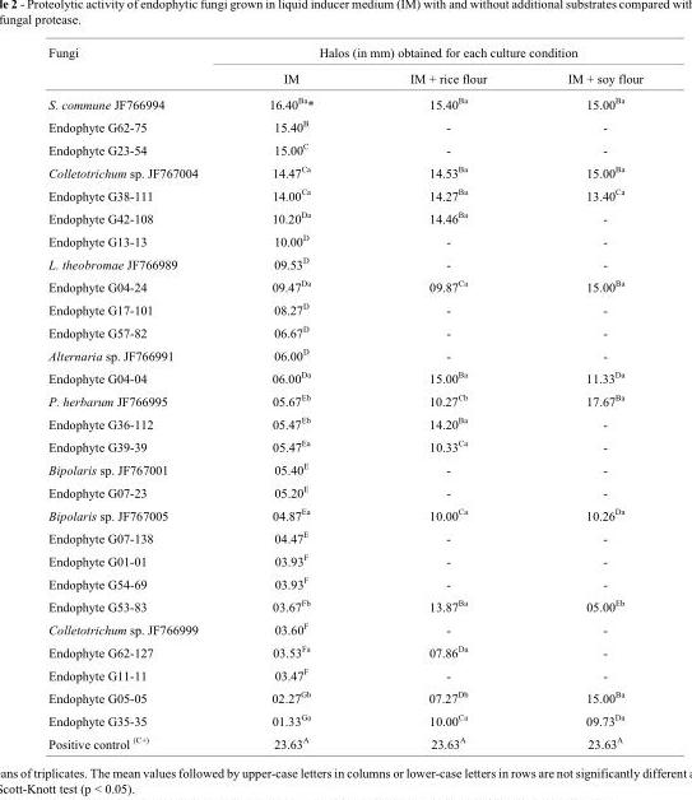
<table><thead><tr><td rowspan="2">Fungi</td><td colspan="3">Halos (in mm) obtained for each culture condition</td></tr><tr><td>IM</td><td>IM + rice flour</td><td>IM + soy flour</td></tr></thead><tbody><tr><td>S. commune JF766994</td><td>16.40<sup>Ba</sup>*</td><td>15.40<sup>Ba</sup></td><td>15.00<sup>Ba</sup></td></tr><tr><td>Endophyte G62-75</td><td>15.40<sup>B</sup></td><td>-</td><td>-</td></tr><tr><td>Endophyte G23-54</td><td>15.00<sup>C</sup></td><td>-</td><td>-</td></tr><tr><td>Colletotrichum sp. JF767004</td><td>14.47<sup>Ca</sup></td><td>14.53<sup>Ba</sup></td><td>15.00<sup>Ba</sup></td></tr><tr><td>Endophyte G38-111</td><td>14.00<sup>Ca</sup></td><td>14.27<sup>Ba</sup></td><td>13.40<sup>Ca</sup></td></tr><tr><td>Endophyte G42-108</td><td>10.20<sup>Da</sup></td><td>14.46<sup>Ba</sup></td><td>-</td></tr><tr><td>Endophyte G13-13</td><td>10.00<sup>D</sup></td><td>-</td><td>-</td></tr><tr><td>L. theobromae JF766989</td><td>09.53<sup>D</sup></td><td>-</td><td>-</td></tr><tr><td>Endophyte G04-24</td><td>09.47<sup>Da</sup></td><td>09.87<sup>Ca</sup></td><td>15.00<sup>Ba</sup></td></tr><tr><td>Endophyte G17-101</td><td>08.27<sup>D</sup></td><td>-</td><td>-</td></tr><tr><td>Endophyte G57-82</td><td>06.67<sup>D</sup></td><td>-</td><td>-</td></tr><tr><td>Alternaria sp. JF766991</td><td>06.00<sup>D</sup></td><td>-</td><td>-</td></tr><tr><td>Endophyte G04-04</td><td>06.00<sup>Da</sup></td><td>15.00<sup>Ba</sup></td><td>11.33<sup>Da</sup></td></tr><tr><td>P. herbarum JF766995</td><td>05.67<sup>Eb</sup></td><td>10.27<sup>Cb</sup></td><td>17.67<sup>Ba</sup></td></tr><tr><td>Endophyte G36-112</td><td>05.47<sup>Eb</sup></td><td>14.20<sup>Ba</sup></td><td>-</td></tr><tr><td>Endophyte G39-39</td><td>05.47<sup>Ea</sup></td><td>10.33<sup>Ca</sup></td><td>-</td></tr><tr><td>Bipolaris sp. JF767001</td><td>05.40<sup>E</sup></td><td>-</td><td>-</td></tr><tr><td>Endophyte G07-23</td><td>05.20<sup>E</sup></td><td>-</td><td>-</td></tr><tr><td>Bipolaris sp. JF767005</td><td>04.87<sup>Ea</sup></td><td>10.00<sup>Ca</sup></td><td>10.26<sup>Da</sup></td></tr><tr><td>Endophyte G07-138</td><td>04.47<sup>E</sup></td><td>-</td><td>-</td></tr><tr><td>Endophyte G01-01</td><td>03.93<sup>F</sup></td><td>-</td><td>-</td></tr><tr><td>Endophyte G54-69</td><td>03.93<sup>F</sup></td><td>-</td><td>-</td></tr><tr><td>Endophyte G53-83</td><td>03.67<sup>Fb</sup></td><td>13.87<sup>Ba</sup></td><td>05.00<sup>Eb</sup></td></tr><tr><td>Colletotrichum sp. JF766999</td><td>03.60<sup>F</sup></td><td>-</td><td>-</td></tr><tr><td>Endophyte G62-127</td><td>03.53<sup>Fa</sup></td><td>07.86<sup>Da</sup></td><td>-</td></tr><tr><td>Endophyte G11-11</td><td>03.47<sup>F</sup></td><td>-</td><td>-</td></tr><tr><td>Endophyte G05-05</td><td>02.27<sup>Gb</sup></td><td>07.27<sup>Db</sup></td><td>15.00<sup>Ba</sup></td></tr><tr><td>Endophyte G35-35</td><td>01.33<sup>Ga</sup></td><td>10.00<sup>Ca</sup></td><td>09.73<sup>Da</sup></td></tr><tr><td>Positive control <sup>(C+)</sup></td><td>23.63<sup>A</sup></td><td>23.63<sup>A</sup></td><td>23.63<sup>A</sup></td></tr></tbody></table>